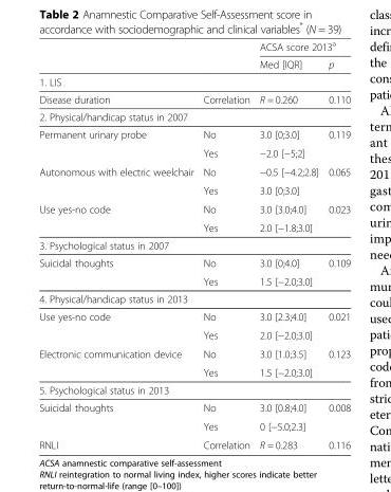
<table><thead><tr><td rowspan="2"></td><td rowspan="2"></td><td colspan="2">ACSA score 2013<sup>a</sup></td></tr><tr><td>Med [IQR]</td><td>p</td></tr></thead><tbody><tr><td colspan="4">1. LIS</td></tr><tr><td>Disease duration</td><td>Correlation</td><td>R = 0.260</td><td>0.110</td></tr><tr><td colspan="4">2. Physical/handicap status in 2007</td></tr><tr><td rowspan="2">Permanent urinary probe</td><td>No</td><td>3.0 [0;3.0]</td><td rowspan="2">0.119</td></tr><tr><td>Yes</td><td>−2.0 [−5;2]</td></tr><tr><td rowspan="2">Autonomous with electric weelchair</td><td>No</td><td>−0.5 [−4.2;2.8]</td><td rowspan="2">0.065</td></tr><tr><td>Yes</td><td>3.0 [0;3.0]</td></tr><tr><td rowspan="2">Use yes-no code</td><td>No</td><td>3.0 [3.0;4.0]</td><td rowspan="2">0.023</td></tr><tr><td>Yes</td><td>2.0 [−1.8;3.0]</td></tr><tr><td colspan="4">3. Psychological status in 2007</td></tr><tr><td rowspan="2">Suicidal thoughts</td><td>No</td><td>3.0 [0;4.0]</td><td rowspan="2">0.109</td></tr><tr><td>Yes</td><td>1.5 [−2.0;3.0]</td></tr><tr><td colspan="4">4. Physical/handicap status in 2013</td></tr><tr><td rowspan="2">Use yes-no code</td><td>No</td><td>3.0 [2.3;4.0]</td><td rowspan="2">0.021</td></tr><tr><td>Yes</td><td>2.0 [−2.0;3.0]</td></tr><tr><td rowspan="2">Electronic communication device</td><td>No</td><td>3.0 [1.0;3.5]</td><td rowspan="2">0.123</td></tr><tr><td>Yes</td><td>1.5 [−2.0;3.0]</td></tr><tr><td colspan="4">5. Psychological status in 2013</td></tr><tr><td rowspan="2">Suicidal thoughts</td><td>No</td><td>3.0 [0.8;4.0]</td><td rowspan="2">0.008</td></tr><tr><td>Yes</td><td>0 [−5.0;2.3]</td></tr><tr><td>RNLI</td><td>Correlation</td><td>R = 0.283</td><td>0.116</td></tr></tbody></table>